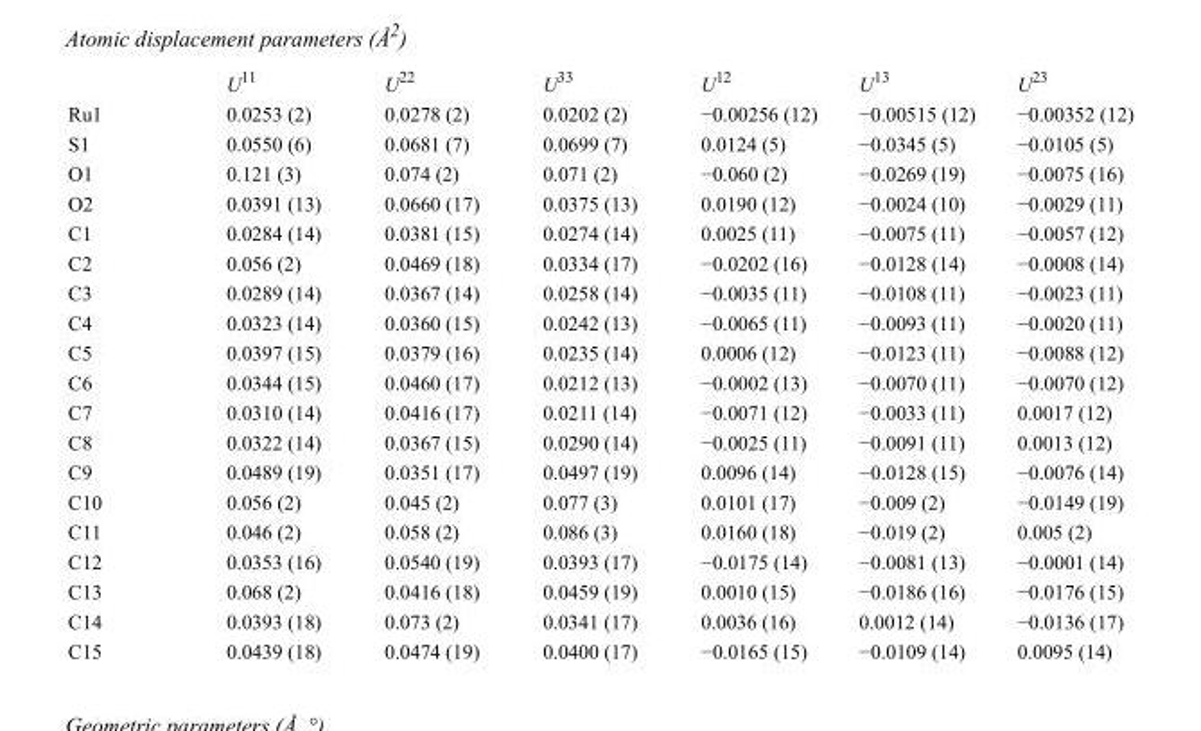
<table><thead><tr><td></td><td>U<sup>11</sup></td><td>U<sup>22</sup></td><td>U<sup>33</sup></td><td>U<sup>12</sup></td><td>U<sup>13</sup></td><td>U<sup>23</sup></td></tr></thead><tbody><tr><td>Ru1</td><td>0.0253 (2)</td><td>0.0278 (2)</td><td>0.0202 (2)</td><td>−0.00256 (12)</td><td>−0.00515 (12)</td><td>−0.00352 (12)</td></tr><tr><td>S1</td><td>0.0550 (6)</td><td>0.0681 (7)</td><td>0.0699 (7)</td><td>0.0124 (5)</td><td>−0.0345 (5)</td><td>−0.0105 (5)</td></tr><tr><td>O1</td><td>0.121 (3)</td><td>0.074 (2)</td><td>0.071 (2)</td><td>−0.060 (2)</td><td>−0.0269 (19)</td><td>−0.0075 (16)</td></tr><tr><td>O2</td><td>0.0391 (13)</td><td>0.0660 (17)</td><td>0.0375 (13)</td><td>0.0190 (12)</td><td>−0.0024 (10)</td><td>−0.0029 (11)</td></tr><tr><td>C1</td><td>0.0284 (14)</td><td>0.0381 (15)</td><td>0.0274 (14)</td><td>0.0025 (11)</td><td>−0.0075 (11)</td><td>−0.0057 (12)</td></tr><tr><td>C2</td><td>0.056 (2)</td><td>0.0469 (18)</td><td>0.0334 (17)</td><td>−0.0202 (16)</td><td>−0.0128 (14)</td><td>−0.0008 (14)</td></tr><tr><td>C3</td><td>0.0289 (14)</td><td>0.0367 (14)</td><td>0.0258 (14)</td><td>−0.0035 (11)</td><td>−0.0108 (11)</td><td>−0.0023 (11)</td></tr><tr><td>C4</td><td>0.0323 (14)</td><td>0.0360 (15)</td><td>0.0242 (13)</td><td>−0.0065 (11)</td><td>−0.0093 (11)</td><td>−0.0020 (11)</td></tr><tr><td>C5</td><td>0.0397 (15)</td><td>0.0379 (16)</td><td>0.0235 (14)</td><td>0.0006 (12)</td><td>−0.0123 (11)</td><td>−0.0088 (12)</td></tr><tr><td>C6</td><td>0.0344 (15)</td><td>0.0460 (17)</td><td>0.0212 (13)</td><td>−0.0002 (13)</td><td>−0.0070 (11)</td><td>−0.0070 (12)</td></tr><tr><td>C7</td><td>0.0310 (14)</td><td>0.0416 (17)</td><td>0.0211 (14)</td><td>−0.0071 (12)</td><td>−0.0033 (11)</td><td>0.0017 (12)</td></tr><tr><td>C8</td><td>0.0322 (14)</td><td>0.0367 (15)</td><td>0.0290 (14)</td><td>−0.0025 (11)</td><td>−0.0091 (11)</td><td>0.0013 (12)</td></tr><tr><td>C9</td><td>0.0489 (19)</td><td>0.0351 (17)</td><td>0.0497 (19)</td><td>0.0096 (14)</td><td>−0.0128 (15)</td><td>−0.0076 (14)</td></tr><tr><td>C10</td><td>0.056 (2)</td><td>0.045 (2)</td><td>0.077 (3)</td><td>0.0101 (17)</td><td>−0.009 (2)</td><td>−0.0149 (19)</td></tr><tr><td>C11</td><td>0.046 (2)</td><td>0.058 (2)</td><td>0.086 (3)</td><td>0.0160 (18)</td><td>−0.019 (2)</td><td>0.005 (2)</td></tr><tr><td>C12</td><td>0.0353 (16)</td><td>0.0540 (19)</td><td>0.0393 (17)</td><td>−0.0175 (14)</td><td>−0.0081 (13)</td><td>−0.0001 (14)</td></tr><tr><td>C13</td><td>0.068 (2)</td><td>0.0416 (18)</td><td>0.0459 (19)</td><td>0.0010 (15)</td><td>−0.0186 (16)</td><td>−0.0176 (15)</td></tr><tr><td>C14</td><td>0.0393 (18)</td><td>0.073 (2)</td><td>0.0341 (17)</td><td>0.0036 (16)</td><td>0.0012 (14)</td><td>−0.0136 (17)</td></tr><tr><td>C15</td><td>0.0439 (18)</td><td>0.0474 (19)</td><td>0.0400 (17)</td><td>−0.0165 (15)</td><td>−0.0109 (14)</td><td>0.0095 (14)</td></tr></tbody></table>